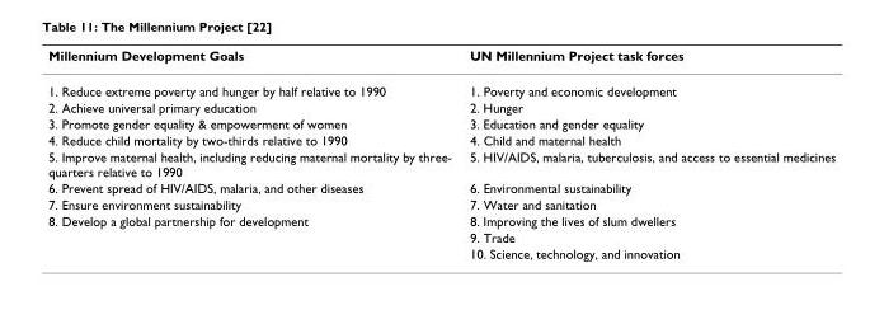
<table><thead><tr><td>Millennium Development Goals</td><td>UN Millennium Project task forces</td></tr></thead><tbody><tr><td>1. Reduce extreme poverty and hunger by half relative to 1990</td><td>1. Poverty and economic development</td></tr><tr><td>2. Achieve universal primary education</td><td>2. Hunger</td></tr><tr><td>3. Promote gender equality &amp; empowerment of women</td><td>3. Education and gender equality</td></tr><tr><td>4. Reduce child mortality by two-thirds relative to 1990</td><td>4. Child and maternal health</td></tr><tr><td>5. Improve maternal health, including reducing maternal mortality by three- quarters relative to 1990</td><td>5. HIV/AIDS, malaria, tuberculosis, and access to essential medicines</td></tr><tr><td>6. Prevent spread of HIV/AIDS, malaria, and other diseases</td><td>6. Environmental sustainability</td></tr><tr><td>7. Ensure environment sustainability</td><td>7. Water and sanitation</td></tr><tr><td rowspan="3">8. Develop a global partnership for development</td><td>8. Improving the lives of slum dwellers</td></tr><tr><td>9. Trade</td></tr><tr><td>10. Science, technology, and innovation</td></tr></tbody></table>